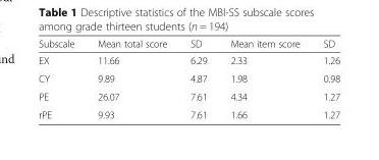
<table><thead><tr><td>Subscale</td><td>Mean total score</td><td>SD</td><td>Mean item score</td><td>SD</td></tr></thead><tbody><tr><td>EX</td><td>11.66</td><td>6.29</td><td>2.33</td><td>1.26</td></tr><tr><td>CY</td><td>9.89</td><td>4.87</td><td>1.98</td><td>0.98</td></tr><tr><td>PE</td><td>26.07</td><td>7.61</td><td>4.34</td><td>1.27</td></tr><tr><td>rPE</td><td>9.93</td><td>7.61</td><td>1.66</td><td>1.27</td></tr></tbody></table>